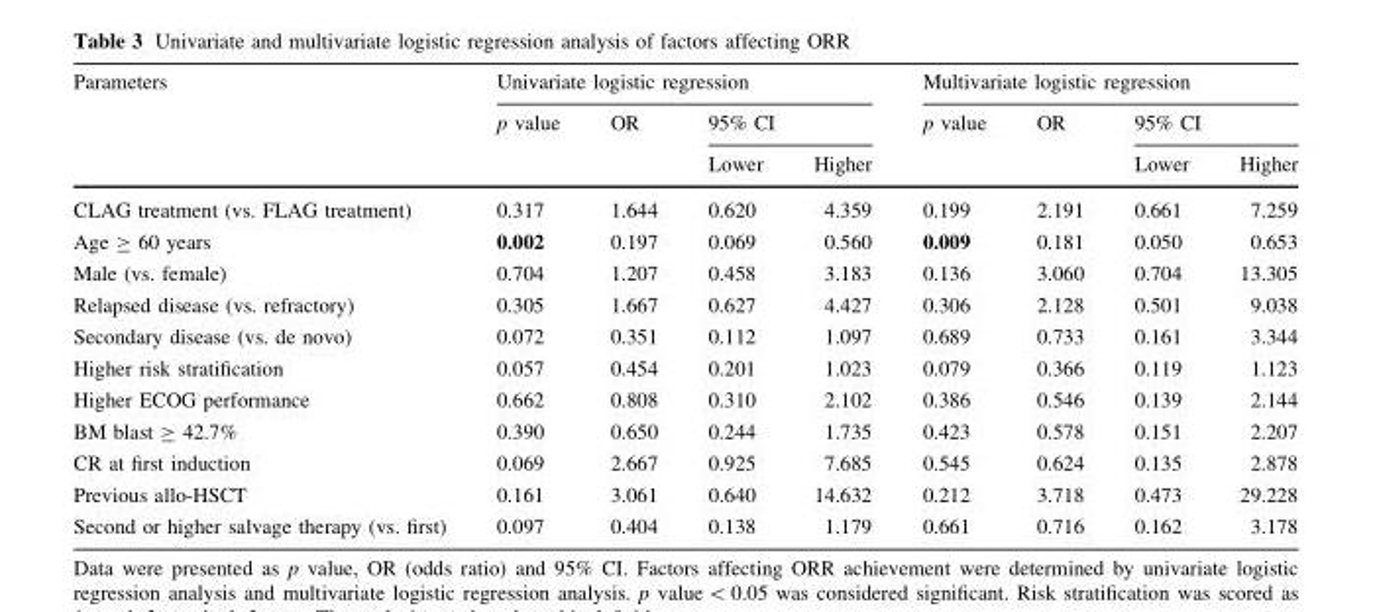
<table><thead><tr><td rowspan="3">Parameters</td><td colspan="4">Univariate logistic regression</td><td colspan="4">Multivariate logistic regression</td></tr><tr><td rowspan="2">p value</td><td rowspan="2">OR</td><td colspan="2">95% CI</td><td rowspan="2">p value</td><td rowspan="2">OR</td><td colspan="2">95% CI</td></tr><tr><td>Lower</td><td>Higher</td><td>Lower</td><td>Higher</td></tr></thead><tbody><tr><td>CLAG treatment (vs. FLAG treatment)</td><td>0.317</td><td>1.644</td><td>0.620</td><td>4.359</td><td>0.199</td><td>2.191</td><td>0.661</td><td>7.259</td></tr><tr><td>Age ≥ 60 years</td><td>0.002</td><td>0.197</td><td>0.069</td><td>0.560</td><td>0.009</td><td>0.181</td><td>0.050</td><td>0.653</td></tr><tr><td>Male (vs. female)</td><td>0.704</td><td>1.207</td><td>0.458</td><td>3.183</td><td>0.136</td><td>3.060</td><td>0.704</td><td>13.305</td></tr><tr><td>Relapsed disease (vs. refractory)</td><td>0.305</td><td>1.667</td><td>0.627</td><td>4.427</td><td>0.306</td><td>2.128</td><td>0.501</td><td>9.038</td></tr><tr><td>Secondary disease (vs. de novo)</td><td>0.072</td><td>0.351</td><td>0.112</td><td>1.097</td><td>0.689</td><td>0.733</td><td>0.161</td><td>3.344</td></tr><tr><td>Higher risk stratification</td><td>0.057</td><td>0.454</td><td>0.201</td><td>1.023</td><td>0.079</td><td>0.366</td><td>0.119</td><td>1.123</td></tr><tr><td>Higher ECOG performance</td><td>0.662</td><td>0.808</td><td>0.310</td><td>2.102</td><td>0.386</td><td>0.546</td><td>0.139</td><td>2.144</td></tr><tr><td>BM blast ≥ 42.7%</td><td>0.390</td><td>0.650</td><td>0.244</td><td>1.735</td><td>0.423</td><td>0.578</td><td>0.151</td><td>2.207</td></tr><tr><td>CR at first induction</td><td>0.069</td><td>2.667</td><td>0.925</td><td>7.685</td><td>0.545</td><td>0.624</td><td>0.135</td><td>2.878</td></tr><tr><td>Previous allo-HSCT</td><td>0.161</td><td>3.061</td><td>0.640</td><td>14.632</td><td>0.212</td><td>3.718</td><td>0.473</td><td>29.228</td></tr><tr><td>Second or higher salvage therapy (vs. first)</td><td>0.097</td><td>0.404</td><td>0.138</td><td>1.179</td><td>0.661</td><td>0.716</td><td>0.162</td><td>3.178</td></tr></tbody></table>